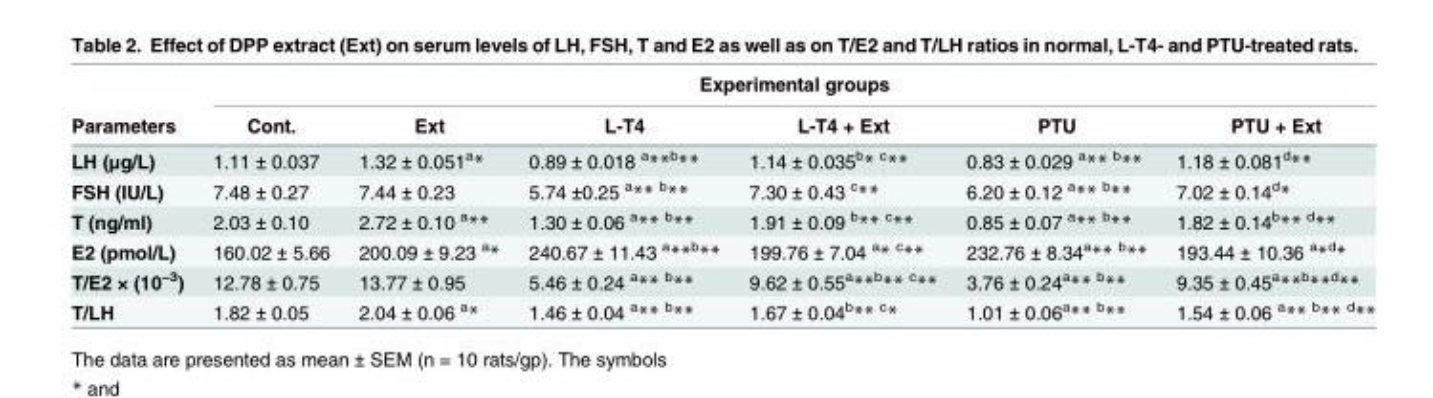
<table><thead><tr><td rowspan="2">Parameters</td><td colspan="6">Experimental groups</td></tr><tr><td>Cont.</td><td>Ext</td><td>L-T4</td><td>L-T4 + Ext</td><td>PTU</td><td>PTU + Ext</td></tr></thead><tbody><tr><td>LH (μg/L)</td><td>1.11 ± 0.037</td><td>1.32 ± 0.051a*</td><td>0.89 ± 0.018 a**b**</td><td>1.14 ± 0.035b* c**</td><td>0.83 ± 0.029 a** b**</td><td>1.18 ± 0.081d**</td></tr><tr><td>FSH (IU/L)</td><td>7.48 ± 0.27</td><td>7.44 ± 0.23</td><td>5.74 ±0.25 a** b**</td><td>7.30 ± 0.43 c**</td><td>6.20 ± 0.12 a** b**</td><td>7.02 ± 0.14d*</td></tr><tr><td>T (ng/ml)</td><td>2.03 ± 0.10</td><td>2.72 ± 0.10 a**</td><td>1.30 ± 0.06 a** b**</td><td>1.91 ± 0.09 b** c**</td><td>0.85 ± 0.07 a** b**</td><td>1.82 ± 0.14b** d**</td></tr><tr><td>E2 (pmol/L)</td><td>160.02 ± 5.66</td><td>200.09 ± 9.23 a*</td><td>240.67 ± 11.43 a**b**</td><td>199.76 ± 7.04 a* c**</td><td>232.76 ± 8.34a** b**</td><td>193.44 ± 10.36 a*d*</td></tr><tr><td>T/E2 × (10−3)</td><td>12.78 ± 0.75</td><td>13.77 ± 0.95</td><td>5.46 ± 0.24 a** b**</td><td>9.62 ± 0.55a**b** c**</td><td>3.76 ± 0.24a** b**</td><td>9.35 ± 0.45a**b**d**</td></tr><tr><td>T/LH</td><td>1.82 ± 0.05</td><td>2.04 ± 0.06 a*</td><td>1.46 ± 0.04 a** b**</td><td>1.67 ± 0.04b** c*</td><td>1.01 ± 0.06a** b**</td><td>1.54 ± 0.06 a** b**</td></tr></tbody></table>